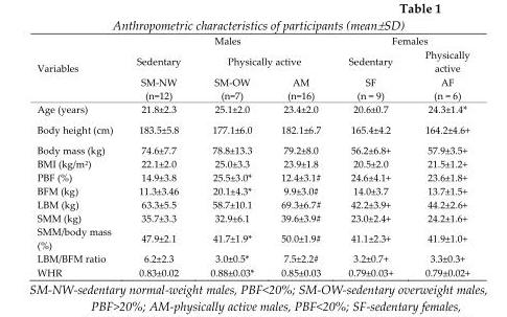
<table><thead><tr><td rowspan="3">Variables</td><td colspan="3">Males</td><td colspan="2">Females</td></tr><tr><td rowspan="2">Sedentary SM-NW (n=12)</td><td colspan="2">Physically active</td><td rowspan="2">Sedentary SF (n = 9)</td><td rowspan="2">Physically active AF (n = 6)</td></tr><tr><td>SM-OW (n=7)</td><td>AM (n=16)</td></tr></thead><tbody><tr><td>Age (years)</td><td>21.8±2.3</td><td>25.1±2.0</td><td>23.4±2.0</td><td>20.6±0.7</td><td>24.3±1.4*</td></tr><tr><td>Body height (cm)</td><td>183.5±5.8</td><td>177.1±6.0</td><td>182.1±6.7</td><td>165.4±4.2</td><td>164.2±4.6+</td></tr><tr><td>Body mass (kg)</td><td>74.6±7.7</td><td>78.8±13.3</td><td>79.2±8.0</td><td>56.2±6.8+</td><td>57.9±3.5+</td></tr><tr><td>BMI (kg/m<sup>2</sup>)</td><td>22.1±2.0</td><td>25.0±3.3</td><td>23.9±1.8</td><td>20.5±2.0</td><td>21.5±1.2+</td></tr><tr><td>PBF (%)</td><td>14.9±3.8</td><td>25.5±3.0*</td><td>12.4±3.1#</td><td>24.6±4.1+</td><td>23.6±1.8+</td></tr><tr><td>BFM (kg)</td><td>11.3±3.46</td><td>20.1±4.3*</td><td>9.9±3.0#</td><td>14.0±3.7</td><td>13.7±1.5+</td></tr><tr><td>LBM (kg)</td><td>63.3±5.5</td><td>58.7±10.1</td><td>69.3±6.7#</td><td>42.2±3.9+</td><td>44.2±2.6+</td></tr><tr><td>SMM (kg)</td><td>35.7±3.3</td><td>32.9±6.1</td><td>39.6±3.9#</td><td>23.0±2.4+</td><td>24.2±1.6+</td></tr><tr><td>SMM/body mass (%)</td><td>47.9±2.1</td><td>41.7±1.9*</td><td>50.0±1.9#</td><td>41.1±2.3+</td><td>41.9±1.0+</td></tr><tr><td>LBM/BFM ratio</td><td>6.2±2.3</td><td>3.0±0.5*</td><td>7.5±2.2#</td><td>3.2±0.7+</td><td>3.3±0.3+</td></tr><tr><td>WHR</td><td>0.83±0.02</td><td>0.88±0.03*</td><td>0.85±0.03</td><td>0.79±0.03+</td><td>0.79±0.02+</td></tr></tbody></table>